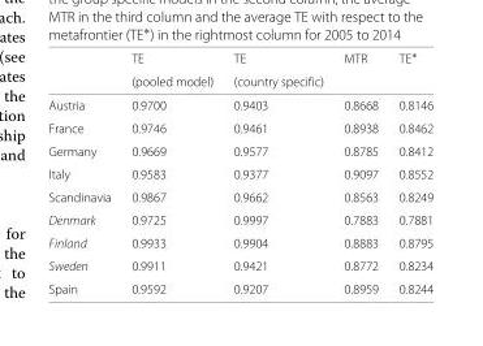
<table><thead><tr><td rowspan="2"></td><td rowspan="2">TE (pooled model)</td><td rowspan="2">TE (country specific)</td><td rowspan="2">MTR</td><td rowspan="2">TE∗</td></tr><tr></tr></thead><tbody><tr><td>Austria</td><td>0.9700</td><td>0.9403</td><td>0.8668</td><td>0.8146</td></tr><tr><td>France</td><td>0.9746</td><td>0.9461</td><td>0.8938</td><td>0.8462</td></tr><tr><td>Germany</td><td>0.9669</td><td>0.9577</td><td>0.8785</td><td>0.8412</td></tr><tr><td>Italy</td><td>0.9583</td><td>0.9377</td><td>0.9097</td><td>0.8552</td></tr><tr><td>Scandinavia</td><td>0.9867</td><td>0.9662</td><td>0.8563</td><td>0.8249</td></tr><tr><td>Denmark</td><td>0.9725</td><td>0.9997</td><td>0.7883</td><td>0.7881</td></tr><tr><td>Finland</td><td>0.9933</td><td>0.9904</td><td>0.8883</td><td>0.8795</td></tr><tr><td>Sweden</td><td>0.9911</td><td>0.9421</td><td>0.8772</td><td>0.8234</td></tr><tr><td>Spain</td><td>0.9592</td><td>0.9207</td><td>0.8959</td><td>0.8244</td></tr></tbody></table>